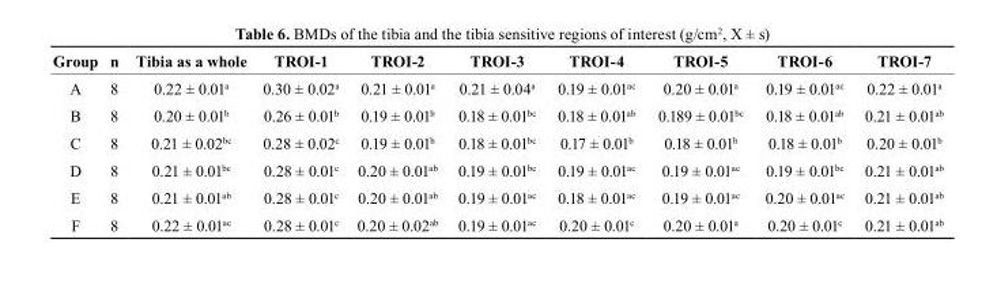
<table><thead><tr><td>Group</td><td>n</td><td>tibia as a whole</td><td>trOI-1</td><td>trOI-2</td><td>trOI-3</td><td>trOI-4</td><td>trOI-5</td><td>trOI-6</td><td>trOI-7</td></tr></thead><tbody><tr><td>A</td><td>8</td><td>0.22 ± 0.01<sup>a</sup></td><td>0.30 ± 0.02<sup>a</sup></td><td>0.21 ± 0.01<sup>a</sup></td><td>0.21 ± 0.04<sup>a</sup></td><td>0.19 ± 0.01<sup>ac</sup></td><td>0.20 ± 0.01<sup>a</sup></td><td>0.19 ± 0.01<sup>ac</sup></td><td>0.22 ± 0.01<sup>a</sup></td></tr><tr><td>B</td><td>8</td><td>0.20 ± 0.01<sup>b</sup></td><td>0.26 ± 0.01<sup>b</sup></td><td>0.19 ± 0.01<sup>b</sup></td><td>0.18 ± 0.01<sup>bc</sup></td><td>0.18 ± 0.01<sup>ab</sup></td><td>0.189 ± 0.01<sup>bc</sup></td><td>0.18 ± 0.01<sup>ab</sup></td><td>0.21 ± 0.01<sup>ab</sup></td></tr><tr><td>C</td><td>8</td><td>0.21 ± 0.02<sup>bc</sup></td><td>0.28 ± 0.02<sup>c</sup></td><td>0.19 ± 0.01<sup>b</sup></td><td>0.18 ± 0.01<sup>bc</sup></td><td>0.17 ± 0.01<sup>b</sup></td><td>0.18 ± 0.01<sup>b</sup></td><td>0.18 ± 0.01<sup>b</sup></td><td>0.20 ± 0.01<sup>b</sup></td></tr><tr><td>D</td><td>8</td><td>0.21 ± 0.01<sup>bc</sup></td><td>0.28 ± 0.01<sup>c</sup></td><td>0.20 ± 0.01<sup>ab</sup></td><td>0.19 ± 0.01<sup>bc</sup></td><td>0.19 ± 0.01<sup>ac</sup></td><td>0.19 ± 0.01<sup>ac</sup></td><td>0.19 ± 0.01<sup>bc</sup></td><td>0.21 ± 0.01<sup>ab</sup></td></tr><tr><td>E</td><td>8</td><td>0.21 ± 0.01<sup>ab</sup></td><td>0.28 ± 0.01<sup>c</sup></td><td>0.20 ± 0.01<sup>ab</sup></td><td>0.19 ± 0.01<sup>ac</sup></td><td>0.18 ± 0.01<sup>ac</sup></td><td>0.19 ± 0.01<sup>ac</sup></td><td>0.20 ± 0.01<sup>ac</sup></td><td>0.21 ± 0.01<sup>ab</sup></td></tr><tr><td>F</td><td>8</td><td>0.22 ± 0.01<sup>ac</sup></td><td>0.28 ± 0.01<sup>c</sup></td><td>0.20 ± 0.02<sup>ab</sup></td><td>0.19 ± 0.01<sup>ac</sup></td><td>0.20 ± 0.01<sup>c</sup></td><td>0.20 ± 0.01<sup>a</sup></td><td>0.20 ± 0.01<sup>c</sup></td><td>0.21 ± 0.01<sup>ab</sup></td></tr></tbody></table>